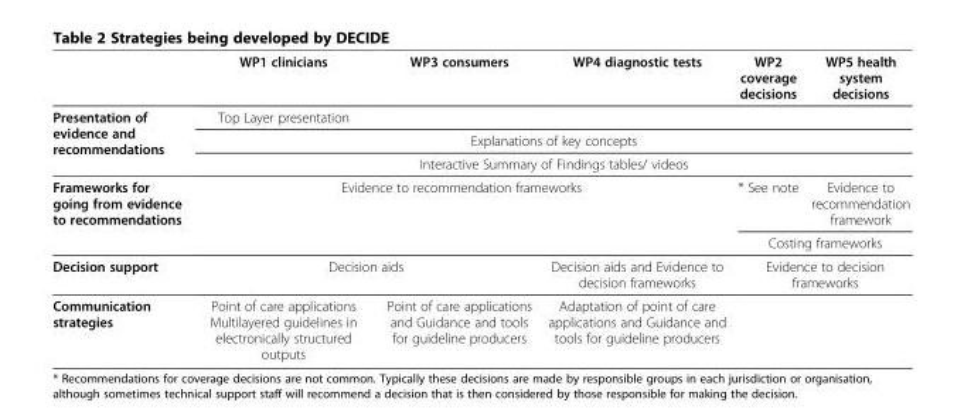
<table><thead><tr><td></td><td>WP1 clinicians</td><td>WP3 consumers</td><td>WP4 diagnostic tests</td><td>WP2 coverage decisions</td><td>WP5 health system decisions</td></tr></thead><tbody><tr><td rowspan="3">Presentation of evidence and recommendations</td><td>Top Layer presentation</td><td colspan="4"></td></tr><tr><td colspan="5">Explanations of key concepts</td></tr><tr><td colspan="5">Interactive Summary of Findings tables/ videos</td></tr><tr><td rowspan="2">Frameworks for going from evidence to recommendations</td><td rowspan="2" colspan="3">Evidence to recommendation frameworks</td><td>* See note</td><td>Evidence to recommendation framework</td></tr><tr><td colspan="2">Costing frameworks</td></tr><tr><td>Decision support</td><td colspan="2">Decision aids</td><td>Decision aids and Evidence to decision frameworks</td><td colspan="2">Evidence to decision frameworks</td></tr><tr><td>Communication strategies</td><td>Point of care applications Multilayered guidelines in electronically structured outputs</td><td>Point of care applications and Guidance and tools for guideline producers</td><td>Adaptation of point of care applications and Guidance and tools for guideline producers</td><td colspan="2"></td></tr></tbody></table>